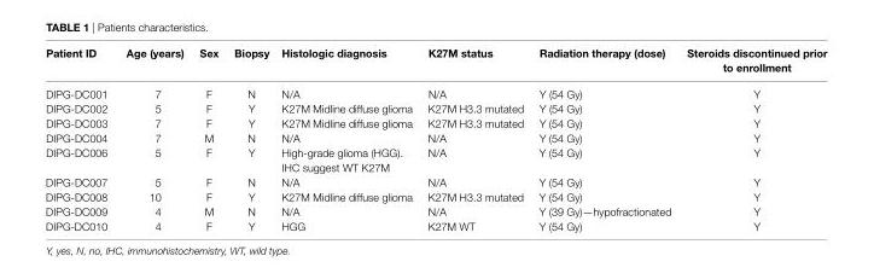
<table><thead><tr><td>Patient iD</td><td>age (years)</td><td>Sex</td><td>Biopsy</td><td>Histologic diagnosis</td><td>K27M status</td><td>radiation therapy (dose)</td><td>Steroids discontinued prior to enrollment</td></tr></thead><tbody><tr><td>DIPG-DC001</td><td>7</td><td>F</td><td>N</td><td>N/A</td><td>N/A</td><td>Y (54 Gy)</td><td>Y</td></tr><tr><td>DIPG-DC002</td><td>5</td><td>F</td><td>Y</td><td>K27M Midline diffuse glioma</td><td>K27M H3.3 mutated</td><td>Y (54 Gy)</td><td>Y</td></tr><tr><td>DIPG-DC003</td><td>7</td><td>F</td><td>Y</td><td>K27M Midline diffuse glioma</td><td>K27M H3.3 mutated</td><td>Y (54 Gy)</td><td>Y</td></tr><tr><td>DIPG-DC004</td><td>7</td><td>M</td><td>N</td><td>N/A</td><td>N/A</td><td>Y (54 Gy)</td><td>Y</td></tr><tr><td>DIPG-DC006</td><td>5</td><td>F</td><td>Y</td><td>High-grade glioma (HGG). IHC suggest WT K27M</td><td>N/A</td><td>Y (54 Gy)</td><td>Y</td></tr><tr><td>DIPG-DC007</td><td>5</td><td>F</td><td>N</td><td>N/A</td><td>N/A</td><td>Y (54 Gy)</td><td>Y</td></tr><tr><td>DIPG-DC008</td><td>10</td><td>F</td><td>Y</td><td>K27M Midline diffuse glioma</td><td>K27M H3.3 mutated</td><td>Y (54 Gy)</td><td>Y</td></tr><tr><td>DIPG-DC009</td><td>4</td><td>M</td><td>N</td><td>N/A</td><td>N/A</td><td>Y (39 Gy)—hypofractionated</td><td>Y</td></tr><tr><td>DIPG-DC010</td><td>4</td><td>F</td><td>Y</td><td>HGG</td><td>K27M WT</td><td>Y (54 Gy)</td><td>Y</td></tr></tbody></table>